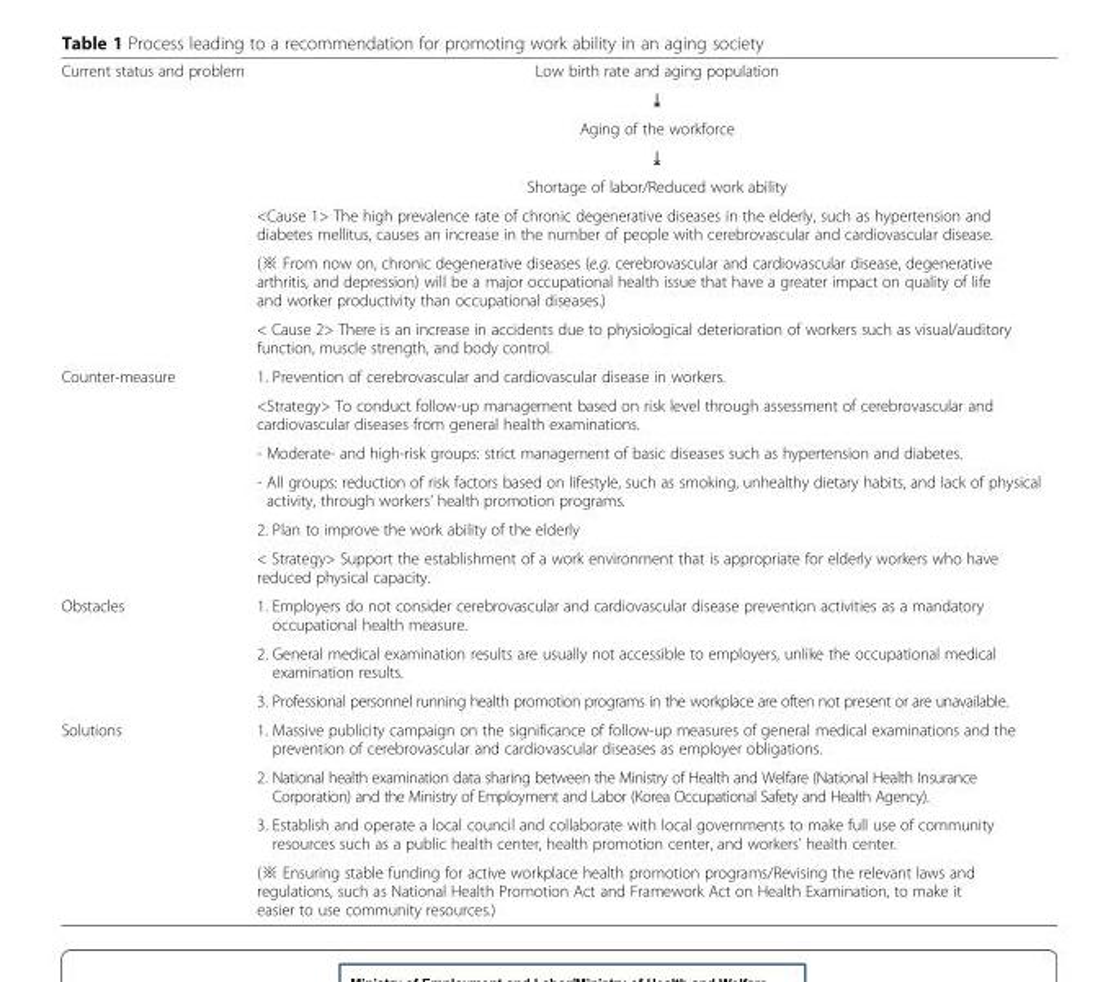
<table><tbody><tr><td rowspan="8">Current status and problem</td><td>Low birth rate and aging population</td></tr><tr><td>⤓</td></tr><tr><td>Aging of the workforce</td></tr><tr><td>⤓</td></tr><tr><td>Shortage of labor/Reduced work ability</td></tr><tr><td>&lt;Cause 1&gt; The high prevalence rate of chronic degenerative diseases in the elderly, such as hypertension and diabetes mellitus, causes an increase in the number of people with cerebrovascular and cardiovascular disease.</td></tr><tr><td>(※ From now on, chronic degenerative diseases (e.g. cerebrovascular and cardiovascular disease, degenerative arthritis, and depression) will be a major occupational health issue that have a greater impact on quality of life and worker productivity than occupational diseases.)</td></tr><tr><td>&lt; Cause 2&gt; There is an increase in accidents due to physiological deterioration of workers such as visual/auditory function, muscle strength, and body control.</td></tr><tr><td rowspan="6">Counter-measure</td><td>1. Prevention of cerebrovascular and cardiovascular disease in workers.</td></tr><tr><td>&lt;Strategy&gt; To conduct follow-up management based on risk level through assessment of cerebrovascular and cardiovascular diseases from general health examinations.</td></tr><tr><td>- Moderate- and high-risk groups: strict management of basic diseases such as hypertension and diabetes.</td></tr><tr><td>- All groups: reduction of risk factors based on lifestyle, such as smoking, unhealthy dietary habits, and lack of physical activity, through workers’ health promotion programs.</td></tr><tr><td>2. Plan to improve the work ability of the elderly</td></tr><tr><td>&lt; Strategy&gt; Support the establishment of a work environment that is appropriate for elderly workers who have reduced physical capacity.</td></tr><tr><td rowspan="3">Obstacles</td><td>1. Employers do not consider cerebrovascular and cardiovascular disease prevention activities as a mandatory occupational health measure.</td></tr><tr><td>2. General medical examination results are usually not accessible to employers, unlike the occupational medical examination results.</td></tr><tr><td>3. Professional personnel running health promotion programs in the workplace are often not present or are unavailable.</td></tr><tr><td rowspan="4">Solutions</td><td>1. Massive publicity campaign on the significance of follow-up measures of general medical examinations and the prevention of cerebrovascular and cardiovascular diseases as employer obligations.</td></tr><tr><td>2. National health examination data sharing between the Ministry of Health and Welfare (National Health Insurance Corporation) and the Ministry of Employment and Labor (Korea Occupational Safety and Health Agency).</td></tr><tr><td>3. Establish and operate a local council and collaborate with local governments to make full use of community resources such as a public health center, health promotion center, and workers’ health center.</td></tr><tr><td>(※ Ensuring stable funding for active workplace health promotion programs/Revising the relevant laws and regulations, such as National Health Promotion Act and Framework Act on Health Examination, to make it easier to use community resources.)</td></tr></tbody></table>